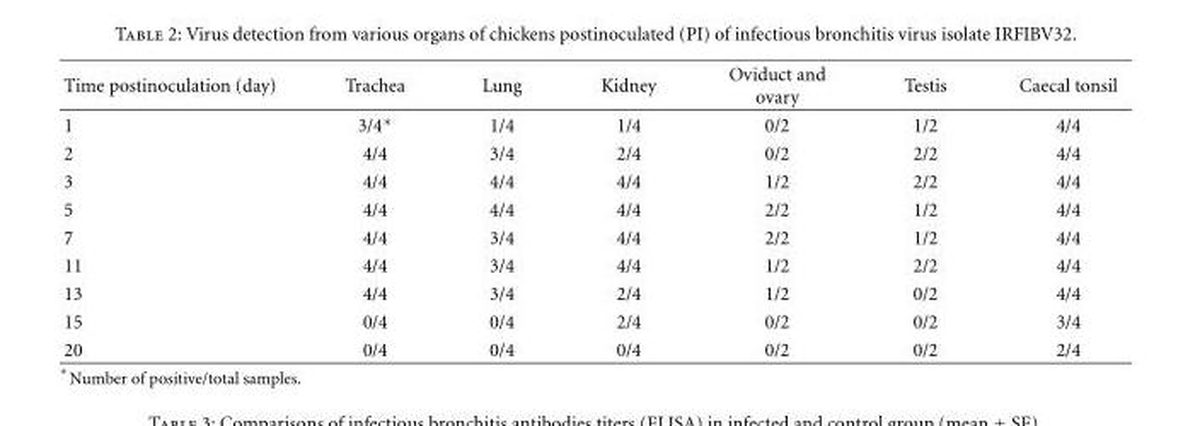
<table><thead><tr><td>Time postinoculation (day)</td><td>Trachea</td><td>Lung</td><td>Kidney</td><td>Oviduct and ovary</td><td>Testis</td><td>Caecal tonsil</td></tr></thead><tbody><tr><td>1</td><td>3/4∗</td><td>1/4</td><td>1/4</td><td>0/2</td><td>1/2</td><td>4/4</td></tr><tr><td>2</td><td>4/4</td><td>3/4</td><td>2/4</td><td>0/2</td><td>2/2</td><td>4/4</td></tr><tr><td>3</td><td>4/4</td><td>4/4</td><td>4/4</td><td>1/2</td><td>2/2</td><td>4/4</td></tr><tr><td>5</td><td>4/4</td><td>4/4</td><td>4/4</td><td>2/2</td><td>1/2</td><td>4/4</td></tr><tr><td>7</td><td>4/4</td><td>3/4</td><td>4/4</td><td>2/2</td><td>1/2</td><td>4/4</td></tr><tr><td>11</td><td>4/4</td><td>3/4</td><td>4/4</td><td>1/2</td><td>2/2</td><td>4/4</td></tr><tr><td>13</td><td>4/4</td><td>3/4</td><td>2/4</td><td>1/2</td><td>0/2</td><td>4/4</td></tr><tr><td>15</td><td>0/4</td><td>0/4</td><td>2/4</td><td>0/2</td><td>0/2</td><td>3/4</td></tr><tr><td>20</td><td>0/4</td><td>0/4</td><td>0/4</td><td>0/2</td><td>0/2</td><td>2/4</td></tr></tbody></table>